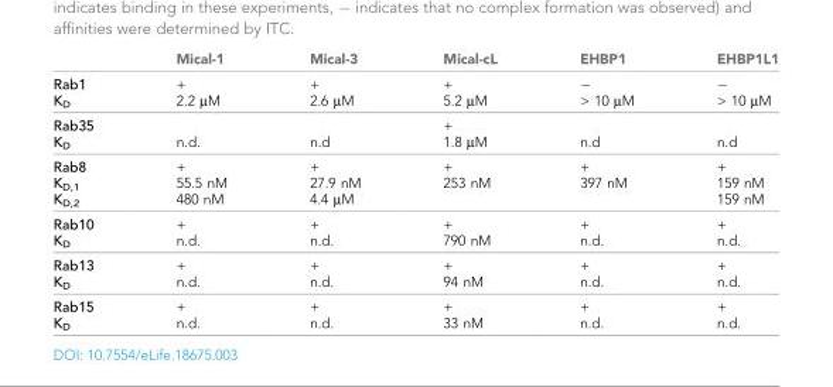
<table><thead><tr><td></td><td>Mical-1</td><td>Mical-3</td><td>Mical-cL</td><td>EHBP1</td><td>EHBP1L1</td></tr></thead><tbody><tr><td>Rab1 K<sub>D</sub></td><td>+ 2.2 µM</td><td>+ 2.6 µM</td><td>+ 5.2 µM</td><td>− &gt; 10 µM</td><td>− &gt; 10 µM</td></tr><tr><td>Rab35 K<sub>D</sub></td><td>n.d.</td><td>n.d</td><td>+ 1.8 µM</td><td>n.d</td><td>n.d</td></tr><tr><td>Rab8 K<sub>D,1</sub> K<sub>D,2</sub></td><td>+ 55.5 nM 480 nM</td><td>+ 27.9 nM 4.4 µM</td><td>+ 253 nM</td><td>+ 397 nM</td><td>+ 159 nM 159 nM</td></tr><tr><td>Rab10 K<sub>D</sub></td><td>+ n.d.</td><td>+ n.d.</td><td>+ 790 nM</td><td>+ n.d.</td><td>+ n.d.</td></tr><tr><td>Rab13 K<sub>D</sub></td><td>+ n.d.</td><td>+ n.d.</td><td>+ 94 nM</td><td>+ n.d.</td><td>+ n.d.</td></tr><tr><td>Rab15 K<sub>D</sub></td><td>+ n.d.</td><td>+ n.d.</td><td>+ 33 nM</td><td>+ n.d.</td><td>+ n.d.</td></tr></tbody></table>